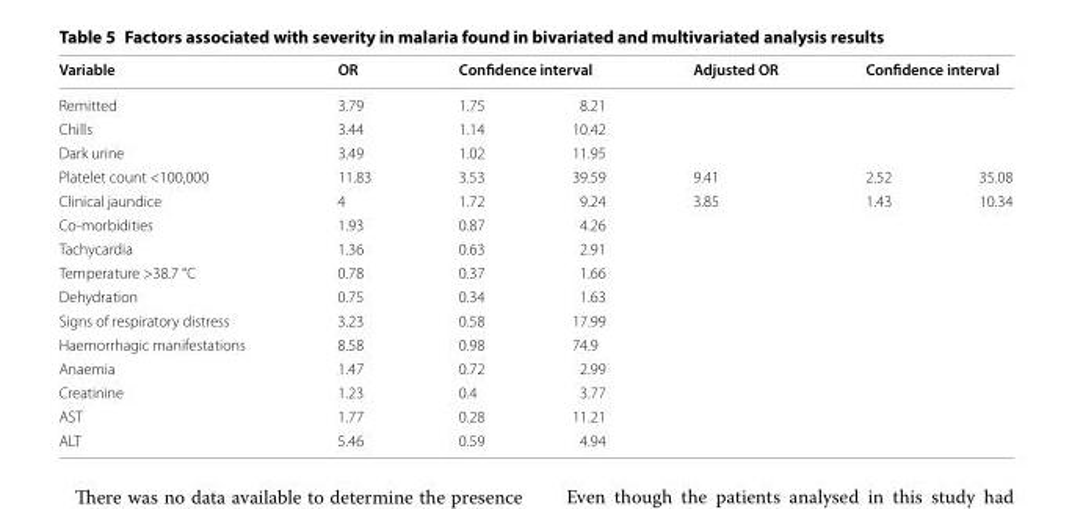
<table><thead><tr><td rowspan="3">Variable Remitted Chills</td><td rowspan="3">OR 3.79 3.44</td><td colspan="2">Confidence interval</td><td rowspan="3">Adjusted OR</td><td rowspan="2" colspan="2">Confidence interval</td></tr><tr><td rowspan="2">1.75 1.14</td><td rowspan="2">8.21 10.42</td></tr><tr><td></td><td></td></tr></thead><tbody><tr><td>Dark urine</td><td>3.49</td><td>1.02</td><td>11.95</td><td></td><td></td><td></td></tr><tr><td>Platelet count &lt;100,000</td><td>11.83</td><td>3.53</td><td>39.59</td><td>9.41</td><td>2.52</td><td>35.08</td></tr><tr><td>Clinical jaundice</td><td>4</td><td>1.72</td><td>9.24</td><td>3.85</td><td>1.43</td><td>10.34</td></tr><tr><td>Co-morbidities</td><td>1.93</td><td>0.87</td><td>4.26</td><td></td><td></td><td></td></tr><tr><td>Tachycardia</td><td>1.36</td><td>0.63</td><td>2.91</td><td></td><td></td><td></td></tr><tr><td>Temperature &gt;38.7 °C</td><td>0.78</td><td>0.37</td><td>1.66</td><td></td><td></td><td></td></tr><tr><td>Dehydration</td><td>0.75</td><td>0.34</td><td>1.63</td><td></td><td></td><td></td></tr><tr><td>Signs of respiratory distress</td><td>3.23</td><td>0.58</td><td>17.99</td><td></td><td></td><td></td></tr><tr><td>Haemorrhagic manifestations</td><td>8.58</td><td>0.98</td><td>74.9</td><td></td><td></td><td></td></tr><tr><td>Anaemia</td><td>1.47</td><td>0.72</td><td>2.99</td><td></td><td></td><td></td></tr><tr><td>Creatinine</td><td>1.23</td><td>0.4</td><td>3.77</td><td></td><td></td><td></td></tr><tr><td>AST</td><td>1.77</td><td>0.28</td><td>11.21</td><td></td><td></td><td></td></tr><tr><td>ALT</td><td>5.46</td><td>0.59</td><td>4.94</td><td></td><td></td><td></td></tr></tbody></table>